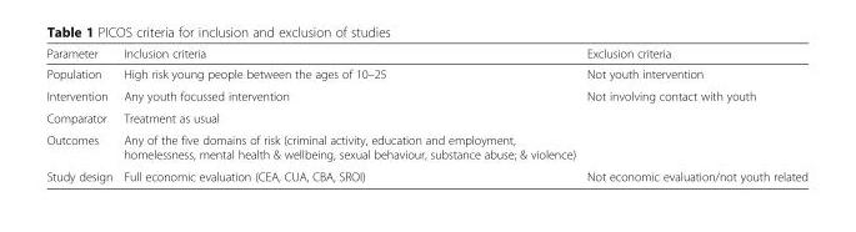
<table><thead><tr><td>Parameter</td><td>Inclusion criteria</td><td>Exclusion criteria</td></tr></thead><tbody><tr><td>Population</td><td>High risk young people between the ages of 10–25</td><td>Not youth intervention</td></tr><tr><td>Intervention</td><td>Any youth focussed intervention</td><td>Not involving contact with youth</td></tr><tr><td>Comparator</td><td>Treatment as usual</td><td></td></tr><tr><td>Outcomes</td><td>Any of the five domains of risk (criminal activity, education and employment, homelessness, mental health &amp; wellbeing, sexual behaviour, substance abuse; &amp; violence)</td><td></td></tr><tr><td>Study design</td><td>Full economic evaluation (CEA, CUA, CBA, SROI)</td><td>Not economic evaluation/not youth related</td></tr></tbody></table>